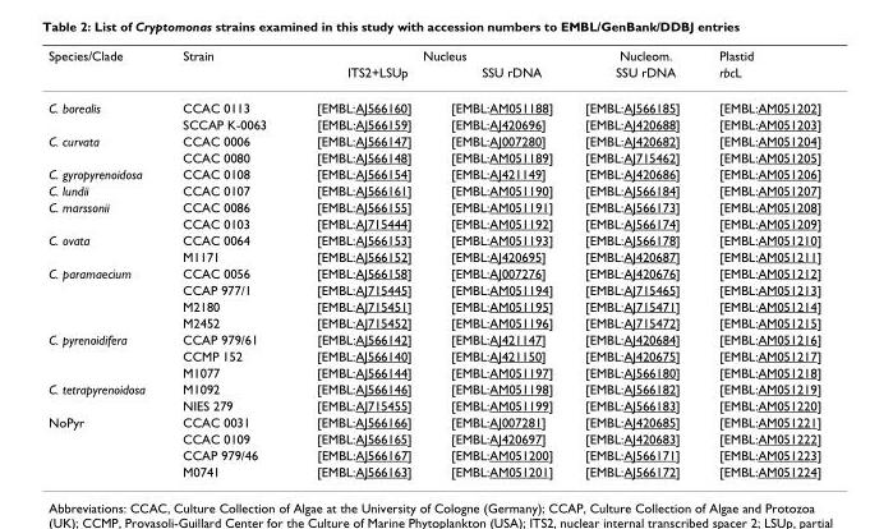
<table><thead><tr><td rowspan="2">Species/Clade</td><td rowspan="2">Strain</td><td colspan="2">Nucleus</td><td rowspan="2">Nucleom. SSU rDNA</td><td rowspan="2">Plastid rbcL</td></tr><tr><td>ITS2+LSUp</td><td>SSU rDNA</td></tr></thead><tbody><tr><td rowspan="2">C. borealis</td><td>CCAC 0113</td><td>[EMBL:AJ566160]</td><td>[EMBL:AM051188]</td><td>[EMBL:AJ566185]</td><td>[EMBL:AM051202]</td></tr><tr><td>SCCAP K-0063</td><td>[EMBL:AJ566159]</td><td>[EMBL:AJ420696]</td><td>[EMBL:AJ420688]</td><td>[EMBL:AM051203]</td></tr><tr><td rowspan="2">C. curvata</td><td>CCAC 0006</td><td>[EMBL:AJ566147]</td><td>[EMBL:AJ007280]</td><td>[EMBL:AJ420682]</td><td>[EMBL:AM051204]</td></tr><tr><td>CCAC 0080</td><td>[EMBL:AJ566148]</td><td>[EMBL:AM051189]</td><td>[EMBL:AJ715462]</td><td>[EMBL:AM051205]</td></tr><tr><td>C. gyropyrenoidosa</td><td>CCAC 0108</td><td>[EMBL:AJ566154]</td><td>[EMBL:AJ421149]</td><td>[EMBL:AJ420686]</td><td>[EMBL:AM051206]</td></tr><tr><td>C. lundii</td><td>CCAC 0107</td><td>[EMBL:AJ566161]</td><td>[EMBL:AM051190]</td><td>[EMBL:AJ566184]</td><td>[EMBL:AM051207]</td></tr><tr><td rowspan="2">C. marssonii</td><td>CCAC 0086</td><td>[EMBL:AJ566155]</td><td>[EMBL:AM051191]</td><td>[EMBL:AJ566173]</td><td>[EMBL:AM051208]</td></tr><tr><td>CCAC 0103</td><td>[EMBL:AJ715444]</td><td>[EMBL:AM051192]</td><td>[EMBL:AJ566174]</td><td>[EMBL:AM051209]</td></tr><tr><td rowspan="2">C. ovata</td><td>CCAC 0064</td><td>[EMBL:AJ566153]</td><td>[EMBL:AM051193]</td><td>[EMBL:AJ566178]</td><td>[EMBL:AM051210]</td></tr><tr><td>M1171</td><td>[EMBL:AJ566152]</td><td>[EMBL:AJ420695]</td><td>[EMBL:AJ420687]</td><td>[EMBL:AM051211]</td></tr><tr><td rowspan="4">C. paramaecium</td><td>CCAC 0056</td><td>[EMBL:AJ566158]</td><td>[EMBL:AJ007276]</td><td>[EMBL:AJ420676]</td><td>[EMBL:AM051212]</td></tr><tr><td>CCAP 977/1</td><td>[EMBL:AJ715445]</td><td>[EMBL:AM051194]</td><td>[EMBL:AJ715465]</td><td>[EMBL:AM051213]</td></tr><tr><td>M2180</td><td>[EMBL:AJ715451]</td><td>[EMBL:AM051195]</td><td>[EMBL:AJ715471]</td><td>[EMBL:AM051214]</td></tr><tr><td>M2452</td><td>[EMBL:AJ715452]</td><td>[EMBL:AM051196]</td><td>[EMBL:AJ715472]</td><td>[EMBL:AM051215]</td></tr><tr><td rowspan="3">C. pyrenoidifera</td><td>CCAP 979/61</td><td>[EMBL:AJ566142]</td><td>[EMBL:AJ421147]</td><td>[EMBL:AJ420684]</td><td>[EMBL:AM051216]</td></tr><tr><td>CCMP 152</td><td>[EMBL:AJ566140]</td><td>[EMBL:AJ421150]</td><td>[EMBL:AJ420675]</td><td>[EMBL:AM051217]</td></tr><tr><td>M1077</td><td>[EMBL:AJ566144]</td><td>[EMBL:AM051197]</td><td>[EMBL:AJ566180]</td><td>[EMBL:AM051218]</td></tr><tr><td rowspan="2">C. tetrapyrenoidosa</td><td>M1092</td><td>[EMBL:AJ566146]</td><td>[EMBL:AM051198]</td><td>[EMBL:AJ566182]</td><td>[EMBL:AM051219]</td></tr><tr><td>NIES 279</td><td>[EMBL:AJ715455]</td><td>[EMBL:AM051199]</td><td>[EMBL:AJ566183]</td><td>[EMBL:AM051220]</td></tr><tr><td rowspan="4">NoPyr</td><td>CCAC 0031</td><td>[EMBL:AJ566166]</td><td>[EMBL:AJ007281]</td><td>[EMBL:AJ420685]</td><td>[EMBL:AM051221]</td></tr><tr><td>CCAC 0109</td><td>[EMBL:AJ566165]</td><td>[EMBL:AJ420697]</td><td>[EMBL:AJ420683]</td><td>[EMBL:AM051222]</td></tr><tr><td>CCAP 979/46</td><td>[EMBL:AJ566167]</td><td>[EMBL:AM051200]</td><td>[EMBL:AJ566171]</td><td>[EMBL:AM051223]</td></tr><tr><td>M0741</td><td>[EMBL:AJ566163]</td><td>[EMBL:AM051201]</td><td>[EMBL:AJ566172]</td><td>[EMBL:AM051224]</td></tr></tbody></table>